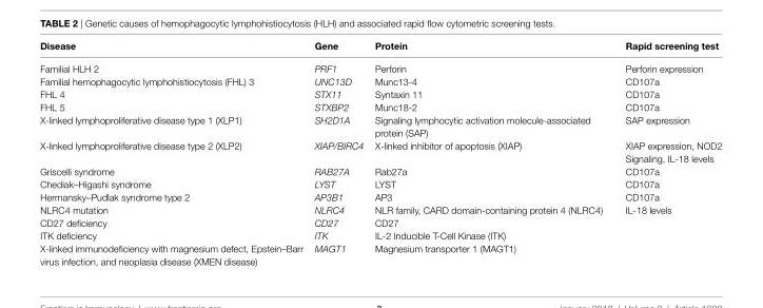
<table><thead><tr><td>Disease</td><td>Gene</td><td>Protein</td><td>Rapid screening test</td></tr></thead><tbody><tr><td>Familial HLH 2</td><td>PRF1</td><td>Perforin</td><td>Perforin expression</td></tr><tr><td>Familial hemophagocytic lymphohistiocytosis (FHL) 3</td><td>UNC13D</td><td>Munc13-4</td><td>CD107a</td></tr><tr><td>FHL 4</td><td>STX11</td><td>Syntaxin 11</td><td>CD107a</td></tr><tr><td>FHL 5</td><td>STXBP2</td><td>Munc18-2</td><td>CD107a</td></tr><tr><td>X-linked lymphoproliferative disease type 1 (XLP1)</td><td>SH2D1A</td><td>Signaling lymphocytic activation molecule-associated protein (SAP)</td><td>SAP expression</td></tr><tr><td>X-linked lymphoproliferative disease type 2 (XLP2)</td><td>XIAP/BIRC4</td><td>X-linked inhibitor of apoptosis (XIAP)</td><td>XIAP expression, NOD2 Signaling, IL-18 levels</td></tr><tr><td>Griscelli syndrome</td><td>RAB27A</td><td>Rab27a</td><td>CD107a</td></tr><tr><td>Chediak–Higashi syndrome</td><td>LYST</td><td>LYST</td><td>CD107a</td></tr><tr><td>Hermansky–Pudlak syndrome type 2</td><td>AP3B1</td><td>AP3</td><td>CD107a</td></tr><tr><td>NLRC4 mutation</td><td>NLRC4</td><td>NLR family, CARD domain-containing protein 4 (NLRC4)</td><td>IL-18 levels</td></tr><tr><td>CD27 deficiency</td><td>CD27</td><td>CD27</td><td></td></tr><tr><td>ITK deficiency</td><td>ITK</td><td>IL-2 Inducible T-Cell Kinase (ITK)</td><td></td></tr><tr><td>X-linked immunodeficiency with magnesium defect, Epstein–Barr virus infection, and neoplasia disease (XMEN disease)</td><td>MAGT1</td><td>Magnesium transporter 1 (MAGT1)</td><td></td></tr></tbody></table>